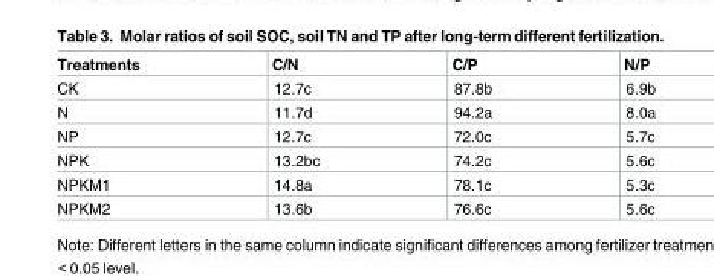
<table><thead><tr><td>Treatments</td><td>C/N</td><td>C/P</td><td>N/P</td></tr></thead><tbody><tr><td>CK</td><td>12.7c</td><td>87.8b</td><td>6.9b</td></tr><tr><td>N</td><td>11.7d</td><td>94.2a</td><td>8.0a</td></tr><tr><td>NP</td><td>12.7c</td><td>72.0c</td><td>5.7c</td></tr><tr><td>NPK</td><td>13.2bc</td><td>74.2c</td><td>5.6c</td></tr><tr><td>NPKM1</td><td>14.8a</td><td>78.1c</td><td>5.3c</td></tr><tr><td>NPKM2</td><td>13.6b</td><td>76.6c</td><td>5.6c</td></tr></tbody></table>